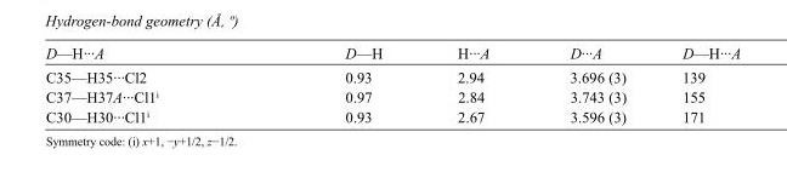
<table><tbody><tr><td>D—H···A</td><td>D—H</td><td>H···A</td><td>D···A</td><td>D—H···A</td></tr><tr><td>C35—H35···Cl2</td><td>0.93</td><td>2.94</td><td>3.696 (3)</td><td>139</td></tr><tr><td>C37—H37A···Cl1<sup>i</sup></td><td>0.97</td><td>2.84</td><td>3.743 (3)</td><td>155</td></tr><tr><td>C30—H30···Cl1<sup>i</sup></td><td>0.93</td><td>2.67</td><td>3.596 (3)</td><td>171</td></tr></tbody></table>